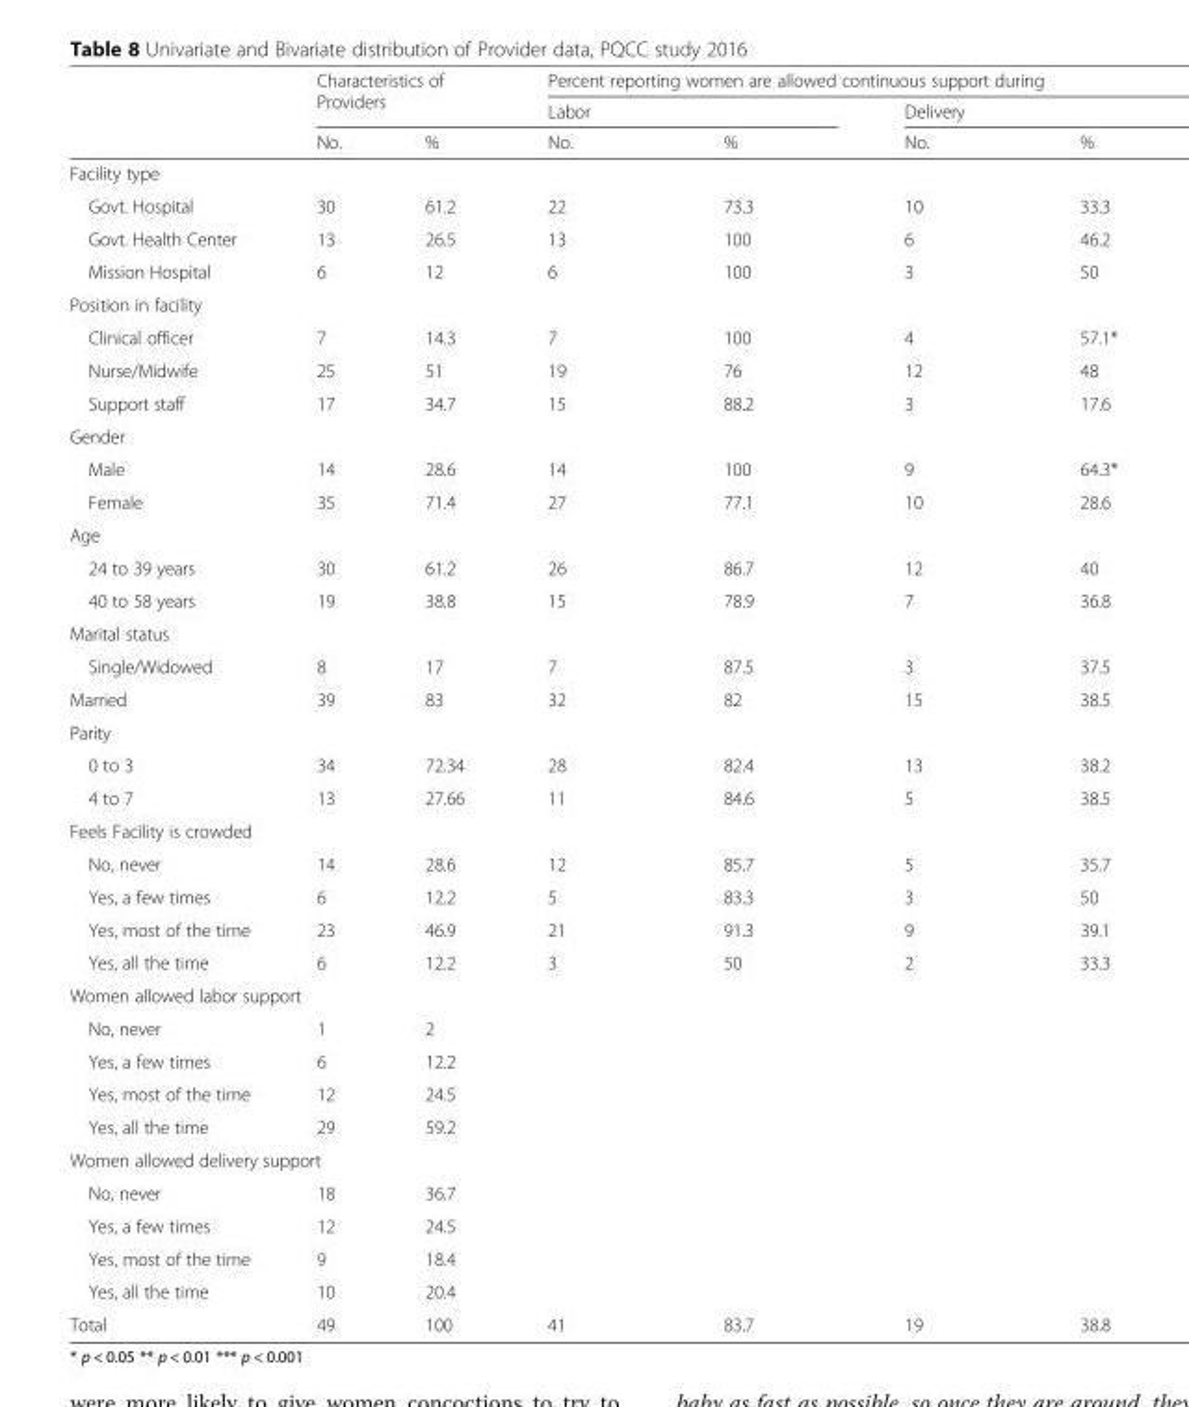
<table><thead><tr><td rowspan="3"></td><td rowspan="2" colspan="2">Characteristics of Providers</td><td colspan="4">Percent reporting women are allowed continuous support during</td></tr><tr><td colspan="2">Labor</td><td colspan="2">Delivery</td></tr><tr><td>No.</td><td>%</td><td>No.</td><td>%</td><td>No.</td><td>%</td></tr></thead><tbody><tr><td colspan="7">Facility type</td></tr><tr><td>Govt. Hospital</td><td>30</td><td>61.2</td><td>22</td><td>73.3</td><td>10</td><td>33.3</td></tr><tr><td>Govt. Health Center</td><td>13</td><td>26.5</td><td>13</td><td>100</td><td>6</td><td>46.2</td></tr><tr><td>Mission Hospital</td><td>6</td><td>12</td><td>6</td><td>100</td><td>3</td><td>50</td></tr><tr><td colspan="7">Position in facility</td></tr><tr><td>Clinical officer</td><td>7</td><td>14.3</td><td>7</td><td>100</td><td>4</td><td>57.1*</td></tr><tr><td>Nurse/Midwife</td><td>25</td><td>51</td><td>19</td><td>76</td><td>12</td><td>48</td></tr><tr><td>Support staff</td><td>17</td><td>34.7</td><td>15</td><td>88.2</td><td>3</td><td>17.6</td></tr><tr><td colspan="7">Gender</td></tr><tr><td>Male</td><td>14</td><td>28.6</td><td>14</td><td>100</td><td>9</td><td>64.3*</td></tr><tr><td>Female</td><td>35</td><td>71.4</td><td>27</td><td>77.1</td><td>10</td><td>28.6</td></tr><tr><td colspan="7">Age</td></tr><tr><td>24 to 39 years</td><td>30</td><td>61.2</td><td>26</td><td>86.7</td><td>12</td><td>40</td></tr><tr><td>40 to 58 years</td><td>19</td><td>38.8</td><td>15</td><td>78.9</td><td>7</td><td>36.8</td></tr><tr><td colspan="7">Marital status</td></tr><tr><td>Single/Widowed</td><td>8</td><td>17</td><td>7</td><td>87.5</td><td>3</td><td>37.5</td></tr><tr><td>Married</td><td>39</td><td>83</td><td>32</td><td>82</td><td>15</td><td>38.5</td></tr><tr><td colspan="7">Parity</td></tr><tr><td>0 to 3</td><td>34</td><td>72.34</td><td>28</td><td>82.4</td><td>13</td><td>38.2</td></tr><tr><td>4 to 7</td><td>13</td><td>27.66</td><td>11</td><td>84.6</td><td>5</td><td>38.5</td></tr><tr><td colspan="7">Feels Facility is crowded</td></tr><tr><td>No, never</td><td>14</td><td>28.6</td><td>12</td><td>85.7</td><td>5</td><td>35.7</td></tr><tr><td>Yes, a few times</td><td>6</td><td>12.2</td><td>5</td><td>83.3</td><td>3</td><td>50</td></tr><tr><td>Yes, most of the time</td><td>23</td><td>46.9</td><td>21</td><td>91.3</td><td>9</td><td>39.1</td></tr><tr><td>Yes, all the time</td><td>6</td><td>12.2</td><td>3</td><td>50</td><td>2</td><td>33.3</td></tr><tr><td colspan="7">Women allowed labor support</td></tr><tr><td>No, never</td><td>1</td><td>2</td><td></td><td></td><td></td><td></td></tr><tr><td>Yes, a few times</td><td>6</td><td>12.2</td><td></td><td></td><td></td><td></td></tr><tr><td>Yes, most of the time</td><td>12</td><td>24.5</td><td></td><td></td><td></td><td></td></tr><tr><td>Yes, all the time</td><td>29</td><td>59.2</td><td></td><td></td><td></td><td></td></tr><tr><td colspan="7">Women allowed delivery support</td></tr><tr><td>No, never</td><td>18</td><td>36.7</td><td></td><td></td><td></td><td></td></tr><tr><td>Yes, a few times</td><td>12</td><td>24.5</td><td></td><td></td><td></td><td></td></tr><tr><td>Yes, most of the time</td><td>9</td><td>18.4</td><td></td><td></td><td></td><td></td></tr><tr><td>Yes, all the time</td><td>10</td><td>20.4</td><td></td><td></td><td></td><td></td></tr><tr><td>Total</td><td>49</td><td>100</td><td>41</td><td>83.7</td><td>19</td><td>38.8</td></tr></tbody></table>